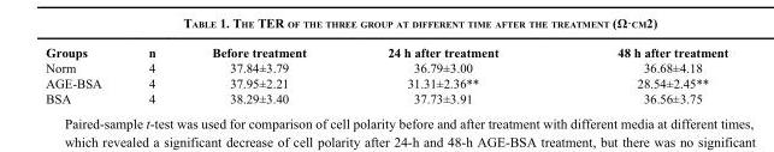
<table><thead><tr><td>Groups</td><td>n</td><td>Before treatment</td><td>24 h after treatment</td><td>48 h after treatment</td></tr></thead><tbody><tr><td>Norm</td><td>4</td><td>37.84±3.79</td><td>36.79±3.00</td><td>36.68±4.18</td></tr><tr><td>AGE-BSA</td><td>4</td><td>37.95±2.21</td><td>31.31±2.36**</td><td>28.54±2.45**</td></tr><tr><td>BSA</td><td>4</td><td>38.29±3.40</td><td>37.73±3.91</td><td>36.56±3.75</td></tr></tbody></table>